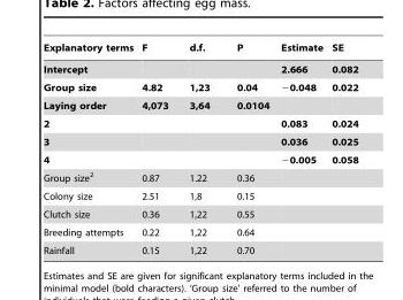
<table><thead><tr><td>Explanatory terms</td><td>F</td><td>d.f.</td><td>P</td><td>Estimate</td><td>SE</td></tr></thead><tbody><tr><td>Intercept</td><td></td><td></td><td></td><td>2.666</td><td>0.082</td></tr><tr><td>Group size</td><td>4.82</td><td>1,23</td><td>0.04</td><td>−0.048</td><td>0.022</td></tr><tr><td>Laying order</td><td>4,073</td><td>3,64</td><td>0.0104</td><td></td><td></td></tr><tr><td>2</td><td></td><td></td><td></td><td>0.083</td><td>0.024</td></tr><tr><td>3</td><td></td><td></td><td></td><td>0.036</td><td>0.025</td></tr><tr><td>4</td><td></td><td></td><td></td><td>−0.005</td><td>0.058</td></tr><tr><td>Group size<sup>2</sup></td><td>0.87</td><td>1.22</td><td>0.36</td><td colspan="2"></td></tr><tr><td>Colony size</td><td>2.51</td><td>1,8</td><td>0.15</td><td colspan="2"></td></tr><tr><td>Clutch size</td><td>0.36</td><td>1,22</td><td>0.55</td><td colspan="2"></td></tr><tr><td>Breeding attempts</td><td>0.22</td><td>1,22</td><td>0.64</td><td colspan="2"></td></tr><tr><td>Rainfall</td><td>0.15</td><td>1,22</td><td>0.70</td><td colspan="2"></td></tr></tbody></table>